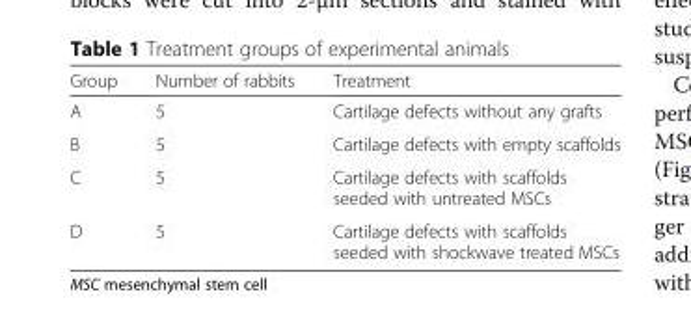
<table><thead><tr><td>Group</td><td>Number of rabbits</td><td>Treatment</td></tr></thead><tbody><tr><td>A</td><td>5</td><td>Cartilage defects without any grafts</td></tr><tr><td>B</td><td>5</td><td>Cartilage defects with empty scaffolds</td></tr><tr><td>C</td><td>5</td><td>Cartilage defects with scaffolds seeded with untreated MSCs</td></tr><tr><td>D</td><td>5</td><td>Cartilage defects with scaffolds seeded with shockwave treated MSCs</td></tr></tbody></table>